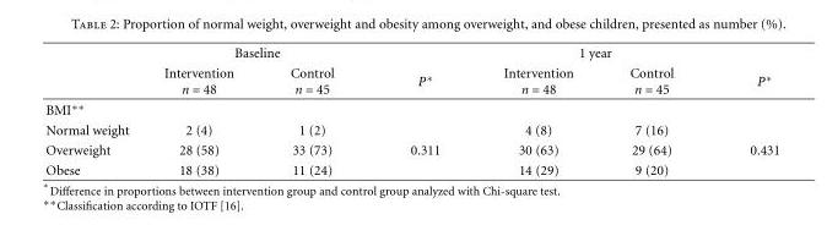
<table><thead><tr><td rowspan="2"></td><td colspan="2">Baseline</td><td rowspan="2">P∗</td><td colspan="2">1 year</td><td rowspan="2">P∗</td></tr><tr><td>Intervention n = 48</td><td>Control n = 45</td><td>Intervention n = 48</td><td>Control n = 45</td></tr></thead><tbody><tr><td colspan="7">BMI∗∗</td></tr><tr><td>Normal weight</td><td>2 (4)</td><td>1 (2)</td><td></td><td>4 (8)</td><td>7 (16)</td><td></td></tr><tr><td>Overweight</td><td>28 (58)</td><td>33 (73)</td><td>0.311</td><td>30 (63)</td><td>29 (64)</td><td>0.431</td></tr><tr><td>Obese</td><td>18 (38)</td><td>11 (24)</td><td></td><td>14 (29)</td><td>9 (20)</td><td></td></tr></tbody></table>